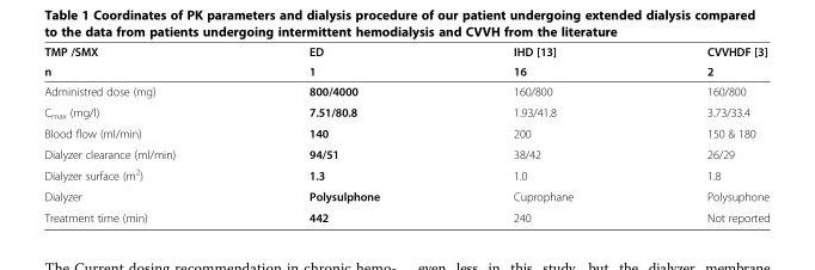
<table><thead><tr><td rowspan="2">TMP /SMX n</td><td rowspan="2">ED 1</td><td rowspan="2">IHD [13] 16</td><td rowspan="2">CVVHDF [3] 2</td></tr><tr></tr></thead><tbody><tr><td>Administred dose (mg)</td><td>800/4000</td><td>160/800</td><td>160/800</td></tr><tr><td>C<sub>max</sub> (mg/l)</td><td>7.51/80.8</td><td>1.93/41.8</td><td>3.73/33.4</td></tr><tr><td>Blood flow (ml/min)</td><td>140</td><td>200</td><td>150 &amp; 180</td></tr><tr><td>Dialyzer clearance (ml/min)</td><td>94/51</td><td>38/42</td><td>26/29</td></tr><tr><td>Dialyzer surface (m<sup>2</sup>)</td><td>1.3</td><td>1.0</td><td>1.8</td></tr><tr><td>Dialyzer</td><td>Polysulphone</td><td>Cuprophane</td><td>Polysuphone</td></tr><tr><td>Treatment time (min)</td><td>442</td><td>240</td><td>Not reported</td></tr></tbody></table>